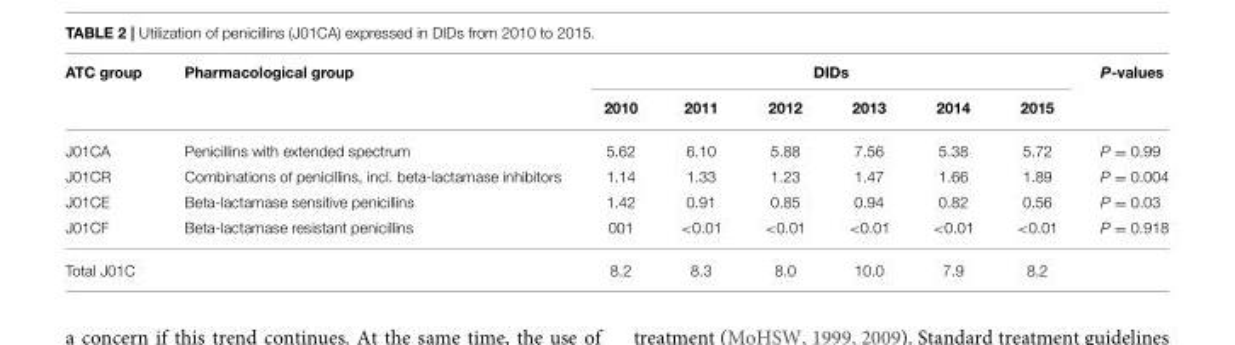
<table><thead><tr><td rowspan="2">ATC group</td><td rowspan="2">Pharmacological group</td><td colspan="6">DIDs</td><td rowspan="2">P-values</td></tr><tr><td>2010</td><td>2011</td><td>2012</td><td>2013</td><td>2014</td><td>2015</td></tr></thead><tbody><tr><td>J01CA</td><td>Penicillins with extended spectrum</td><td>5.62</td><td>6.10</td><td>5.88</td><td>7.56</td><td>5.38</td><td>5.72</td><td>P = 0.99</td></tr><tr><td>J01CR</td><td>Combinations of penicillins, incl. beta-lactamase inhibitors</td><td>1.14</td><td>1.33</td><td>1.23</td><td>1.47</td><td>1.66</td><td>1.89</td><td>P = 0.004</td></tr><tr><td>J01CE</td><td>Beta-lactamase sensitive penicillins</td><td>1.42</td><td>0.91</td><td>0.85</td><td>0.94</td><td>0.82</td><td>0.56</td><td>P = 0.03</td></tr><tr><td>J01CF</td><td>Beta-lactamase resistant penicillins</td><td>001</td><td>&lt;0.01</td><td>&lt;0.01</td><td>&lt;0.01</td><td>&lt;0.01</td><td>&lt;0.01</td><td>P = 0.918</td></tr><tr><td>Total J01C</td><td></td><td>8.2</td><td>8.3</td><td>8.0</td><td>10.0</td><td>7.9</td><td>8.2</td><td></td></tr></tbody></table>